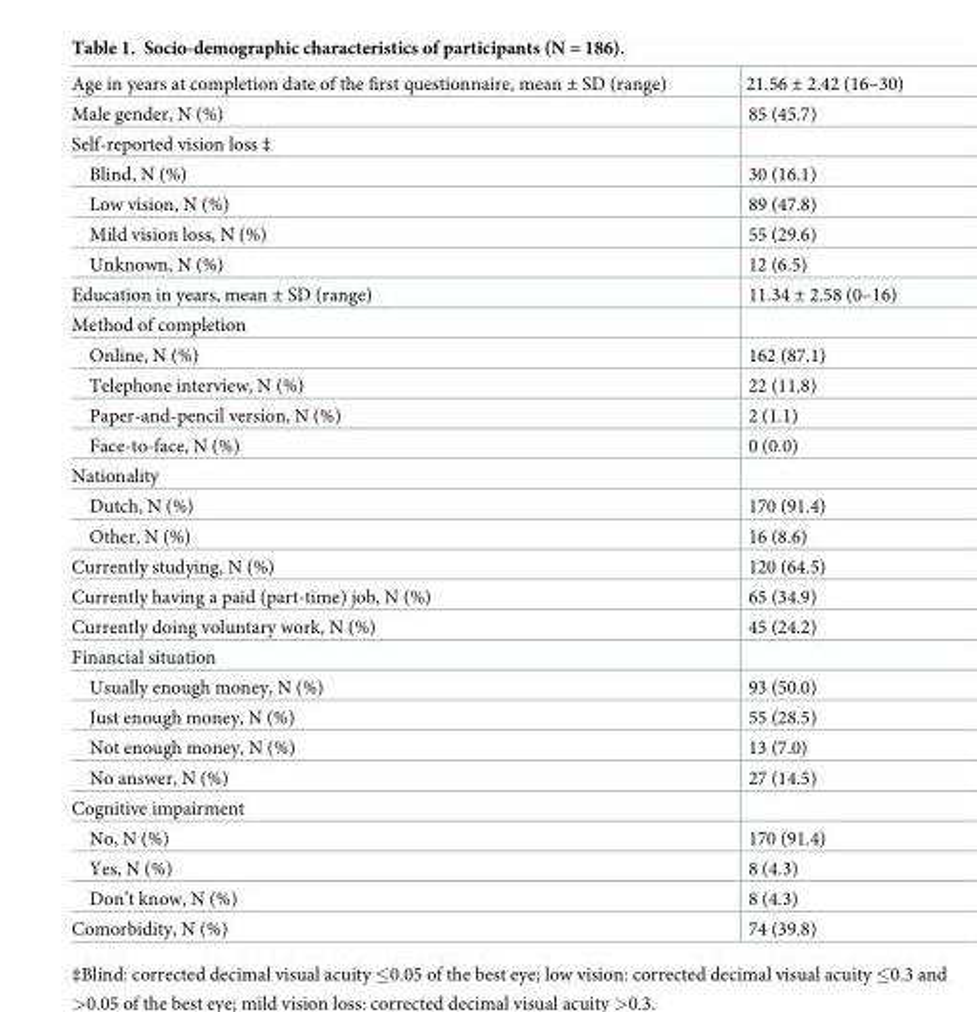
<table><tbody><tr><td>Age in years at completion date of the first questionnaire, mean ± SD (range)</td><td>21.56 ± 2.42 (16–30)</td></tr><tr><td>Male gender, N (%)</td><td>85 (45.7)</td></tr><tr><td colspan="2">Self-reported vision loss ‡</td></tr><tr><td>Blind, N (%)</td><td>30 (16.1)</td></tr><tr><td>Low vision, N (%)</td><td>89 (47.8)</td></tr><tr><td>Mild vision loss, N (%)</td><td>55 (29.6)</td></tr><tr><td>Unknown, N (%)</td><td>12 (6.5)</td></tr><tr><td>Education in years, mean ± SD (range)</td><td>11.34 ± 2.58 (0–16)</td></tr><tr><td colspan="2">Method of completion</td></tr><tr><td>Online, N (%)</td><td>162 (87.1)</td></tr><tr><td>Telephone interview, N (%)</td><td>22 (11.8)</td></tr><tr><td>Paper-and-pencil version, N (%)</td><td>2 (1.1)</td></tr><tr><td>Face-to-face, N (%)</td><td>0 (0.0)</td></tr><tr><td colspan="2">Nationality</td></tr><tr><td>Dutch, N (%)</td><td>170 (91.4)</td></tr><tr><td>Other, N (%)</td><td>16 (8.6)</td></tr><tr><td>Currently studying, N (%)</td><td>120 (64.5)</td></tr><tr><td>Currently having a paid (part-time) job, N (%)</td><td>65 (34.9)</td></tr><tr><td>Currently doing voluntary work, N (%)</td><td>45 (24.2)</td></tr><tr><td colspan="2">Financial situation</td></tr><tr><td>Usually enough money, N (%)</td><td>93 (50.0)</td></tr><tr><td>Just enough money, N (%)</td><td>55 (28.5)</td></tr><tr><td>Not enough money, N (%)</td><td>13 (7.0)</td></tr><tr><td>No answer, N (%)</td><td>27 (14.5)</td></tr><tr><td colspan="2">Cognitive impairment</td></tr><tr><td>No, N (%)</td><td>170 (91.4)</td></tr><tr><td>Yes, N (%)</td><td>8 (4.3)</td></tr><tr><td>Don’t know, N (%)</td><td>8 (4.3)</td></tr><tr><td>Comorbidity, N (%)</td><td>74 (39.8)</td></tr></tbody></table>